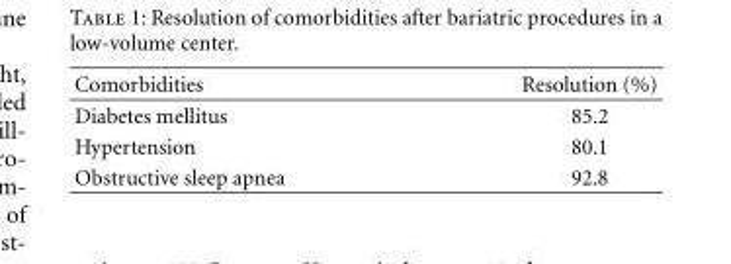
<table><thead><tr><td>Comorbidities</td><td>Resolution (%)</td></tr></thead><tbody><tr><td>Diabetes mellitus</td><td>85.2</td></tr><tr><td>Hypertension</td><td>80.1</td></tr><tr><td>Obstructive sleep apnea</td><td>92.8</td></tr></tbody></table>